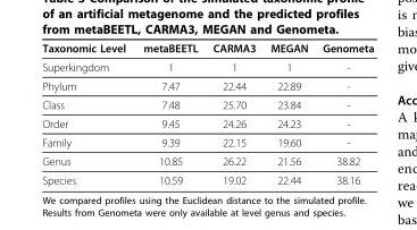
<table><thead><tr><td>Taxonomic Level</td><td>metaBEETL</td><td>CARMA3</td><td>MEGAN</td><td>Genometa</td></tr></thead><tbody><tr><td>Superkingdom</td><td>1</td><td>1</td><td>1</td><td>-</td></tr><tr><td>Phylum</td><td>7.47</td><td>22.44</td><td>22.89</td><td>-</td></tr><tr><td>Class</td><td>7.48</td><td>25.70</td><td>23.84</td><td>-</td></tr><tr><td>Order</td><td>9.45</td><td>24.26</td><td>24.23</td><td>-</td></tr><tr><td>Family</td><td>9.39</td><td>22.15</td><td>19.60</td><td>-</td></tr><tr><td>Genus</td><td>10.85</td><td>26.22</td><td>21.56</td><td>38.82</td></tr><tr><td>Species</td><td>10.59</td><td>19.02</td><td>22.44</td><td>38.16</td></tr></tbody></table>